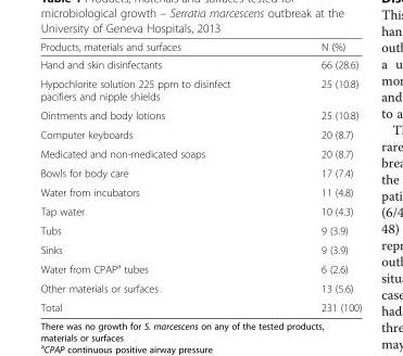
<table><thead><tr><td>Products, materials and surfaces</td><td>N (%)</td></tr></thead><tbody><tr><td>Hand and skin disinfectants</td><td>66 (28.6)</td></tr><tr><td>Hypochlorite solution 225 ppm to disinfect pacifiers and nipple shields</td><td>25 (10.8)</td></tr><tr><td>Ointments and body lotions</td><td>25 (10.8)</td></tr><tr><td>Computer keyboards</td><td>20 (8.7)</td></tr><tr><td>Medicated and non-medicated soaps</td><td>20 (8.7)</td></tr><tr><td>Bowls for body care</td><td>17 (7.4)</td></tr><tr><td>Water from incubators</td><td>11 (4.8)</td></tr><tr><td>Tap water</td><td>10 (4.3)</td></tr><tr><td>Tubs</td><td>9 (3.9)</td></tr><tr><td>Sinks</td><td>9 (3.9)</td></tr><tr><td>Water from CPAP<sup>a</sup> tubes</td><td>6 (2.6)</td></tr><tr><td>Other materials or surfaces</td><td>13 (5.6)</td></tr><tr><td>Total</td><td>231 (100)</td></tr></tbody></table>